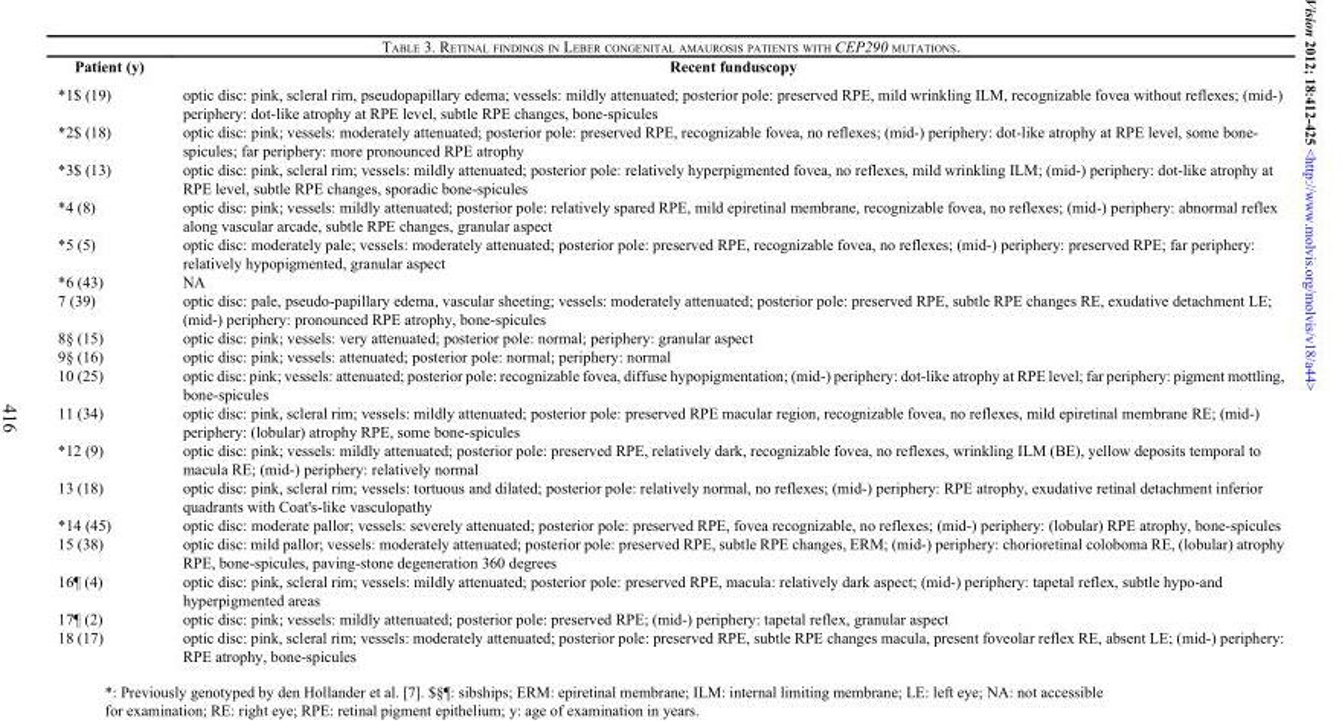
<table><thead><tr><td>Patient (y)</td><td>Recent funduscopy</td></tr></thead><tbody><tr><td>*1$ (19)</td><td>optic disc: pink, scleral rim, pseudopapillary edema; vessels: mildly attenuated; posterior pole: preserved RPE, mild wrinkling ILM, recognizable fovea without reflexes; (mid-) periphery: dot-like atrophy at RPE level, subtle RPE changes, bone-spicules</td></tr><tr><td>*2$ (18)</td><td>optic disc: pink; vessels: moderately attenuated; posterior pole: preserved RPE, recognizable fovea, no reflexes; (mid-) periphery: dot-like atrophy at RPE level, some bone- spicules; far periphery: more pronounced RPE atrophy</td></tr><tr><td>*3$ (13)</td><td>optic disc: pink, scleral rim; vessels: mildly attenuated; posterior pole: relatively hyperpigmented fovea, no reflexes, mild wrinkling ILM; (mid-) periphery: dot-like atrophy at RPE level, subtle RPE changes, sporadic bone-spicules</td></tr><tr><td>*4 (8)</td><td>optic disc: pink; vessels: mildly attenuated; posterior pole: relatively spared RPE, mild epiretinal membrane, recognizable fovea, no reflexes; (mid-) periphery: abnormal reflex along vascular arcade, subtle RPE changes, granular aspect</td></tr><tr><td>*5 (5)</td><td>optic disc: moderately pale; vessels: moderately attenuated; posterior pole: preserved RPE, recognizable fovea, no reflexes; (mid-) periphery: preserved RPE; far periphery: relatively hypopigmented, granular aspect</td></tr><tr><td>*6 (43)</td><td>NA</td></tr><tr><td>7 (39)</td><td>optic disc: pale, pseudo-papillary edema, vascular sheeting; vessels: moderately attenuated; posterior pole: preserved RPE, subtle RPE changes RE, exudative detachment LE; (mid-) periphery: pronounced RPE atrophy, bone-spicules</td></tr><tr><td>8§ (15)</td><td>optic disc: pink; vessels: very attenuated; posterior pole: normal; periphery: granular aspect</td></tr><tr><td>9§ (16)</td><td>optic disc: pink; vessels: attenuated; posterior pole: normal; periphery: normal</td></tr><tr><td>10 (25)</td><td>optic disc: pink; vessels: attenuated; posterior pole: recognizable fovea, diffuse hypopigmentation; (mid-) periphery: dot-like atrophy at RPE level; far periphery: pigment mottling, bone-spicules</td></tr><tr><td>11 (34)</td><td>optic disc: pink, scleral rim; vessels: mildly attenuated; posterior pole: preserved RPE macular region, recognizable fovea, no reflexes, mild epiretinal membrane RE; (mid-) periphery: (lobular) atrophy RPE, some bone-spicules</td></tr><tr><td>*12 (9)</td><td>optic disc: pink; vessels: mildly attenuated; posterior pole: preserved RPE, relatively dark, recognizable fovea, no reflexes, wrinkling ILM (BE), yellow deposits temporal to macula RE; (mid-) periphery: relatively normal</td></tr><tr><td>13 (18)</td><td>optic disc: pink, scleral rim; vessels: tortuous and dilated; posterior pole: relatively normal, no reflexes; (mid-) periphery: RPE atrophy, exudative retinal detachment inferior quadrants with Coat&#x27;s-like vasculopathy</td></tr><tr><td>*14 (45)</td><td>optic disc: moderate pallor; vessels: severely attenuated; posterior pole: preserved RPE, fovea recognizable, no reflexes; (mid-) periphery: (lobular) RPE atrophy, bone-spicules</td></tr><tr><td>15 (38)</td><td>optic disc: mild pallor; vessels: moderately attenuated; posterior pole: preserved RPE, subtle RPE changes, ERM; (mid-) periphery: chorioretinal coloboma RE, (lobular) atrophy RPE, bone-spicules, paving-stone degeneration 360 degrees</td></tr><tr><td>16¶ (4)</td><td>optic disc: pink, scleral rim; vessels: mildly attenuated; posterior pole: preserved RPE, macula: relatively dark aspect; (mid-) periphery: tapetal reflex, subtle hypo-and hyperpigmented areas</td></tr><tr><td>17¶ (2)</td><td>optic disc: pink; vessels: mildly attenuated; posterior pole: preserved RPE; (mid-) periphery: tapetal reflex, granular aspect</td></tr><tr><td>18 (17)</td><td>optic disc: pink, scleral rim; vessels: moderately attenuated; posterior pole: preserved RPE, subtle RPE changes macula, present foveolar reflex RE, absent LE; (mid-) periphery: RPE atrophy, bone-spicules</td></tr></tbody></table>